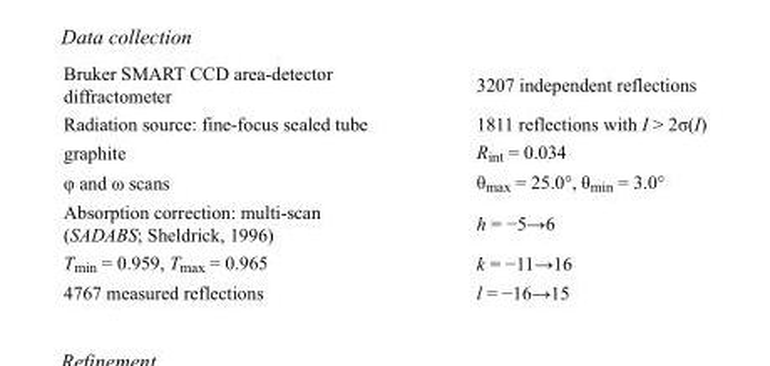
<table><tbody><tr><td>Bruker SMART CCD area-detector diffractometer</td><td>3207 independent reflections</td></tr><tr><td>Radiation source: fine-focus sealed tube</td><td>1811 reflections with I &gt; 2σ(I)</td></tr><tr><td>graphite</td><td>R<sub>int</sub> = 0.034</td></tr><tr><td>φ and ω scans</td><td>θ<sub>max</sub> = 25.0°, θ<sub>min</sub> = 3.0°</td></tr><tr><td>Absorption correction: multi-scan (SADABS; Sheldrick, 1996)</td><td>h = −5→6</td></tr><tr><td>T<sub>min</sub> = 0.959, T<sub>max</sub> = 0.965</td><td>k = −11→16</td></tr><tr><td>4767 measured reflections</td><td>l = −16→15</td></tr></tbody></table>